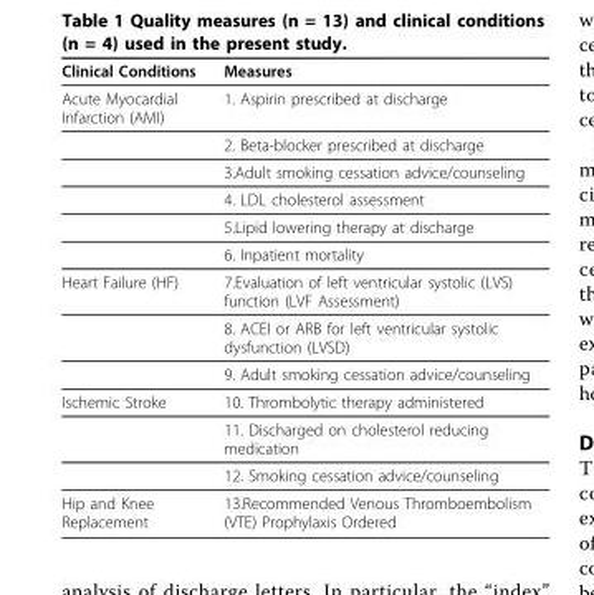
<table><thead><tr><td>Clinical Conditions</td><td>Measures</td></tr></thead><tbody><tr><td rowspan="6">Acute Myocardial Infarction (AMI)</td><td>1. Aspirin prescribed at discharge</td></tr><tr><td>2. Beta-blocker prescribed at discharge</td></tr><tr><td>3.Adult smoking cessation advice/counseling</td></tr><tr><td>4. LDL cholesterol assessment</td></tr><tr><td>5.Lipid lowering therapy at discharge</td></tr><tr><td>6. Inpatient mortality</td></tr><tr><td rowspan="3">Heart Failure (HF)</td><td>7.Evaluation of left ventricular systolic (LVS) function (LVF Assessment)</td></tr><tr><td>8. ACEI or ARB for left ventricular systolic dysfunction (LVSD)</td></tr><tr><td>9. Adult smoking cessation advice/counseling</td></tr><tr><td rowspan="3">Ischemic Stroke</td><td>10. Thrombolytic therapy administered</td></tr><tr><td>11. Discharged on cholesterol reducing medication</td></tr><tr><td>12. Smoking cessation advice/counseling</td></tr><tr><td>Hip and Knee Replacement</td><td>13.Recommended Venous Thromboembolism (VTE) Prophylaxis Ordered</td></tr></tbody></table>